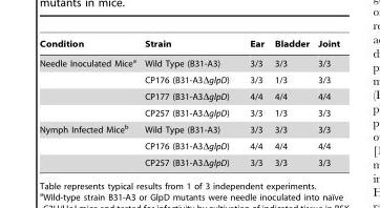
<table><thead><tr><td>Condition</td><td>Strain</td><td>Ear</td><td>Bladder</td><td>Joint</td></tr></thead><tbody><tr><td rowspan="4">Needle Inoculated Mice<sup>a</sup></td><td>Wild Type (B31-A3)</td><td>3/3</td><td>3/3</td><td>3/3</td></tr><tr><td>CP176 (B31-A3ΔglpD)</td><td>3/3</td><td>1/3</td><td>3/3</td></tr><tr><td>CP177 (B31-A3ΔglpD)</td><td>4/4</td><td>4/4</td><td>4/4</td></tr><tr><td>CP257 (B31-A3ΔglpD)</td><td>3/3</td><td>1/3</td><td>3/3</td></tr><tr><td rowspan="3">Nymph Infected Mice<sup>b</sup></td><td>Wild Type (B31-A3)</td><td>3/3</td><td>3/3</td><td>3/3</td></tr><tr><td>CP176 (B31-A3ΔglpD)</td><td>4/4</td><td>4/4</td><td>4/4</td></tr><tr><td>CP257 (B31-A3ΔglpD)</td><td>3/3</td><td>3/3</td><td>3/3</td></tr></tbody></table>